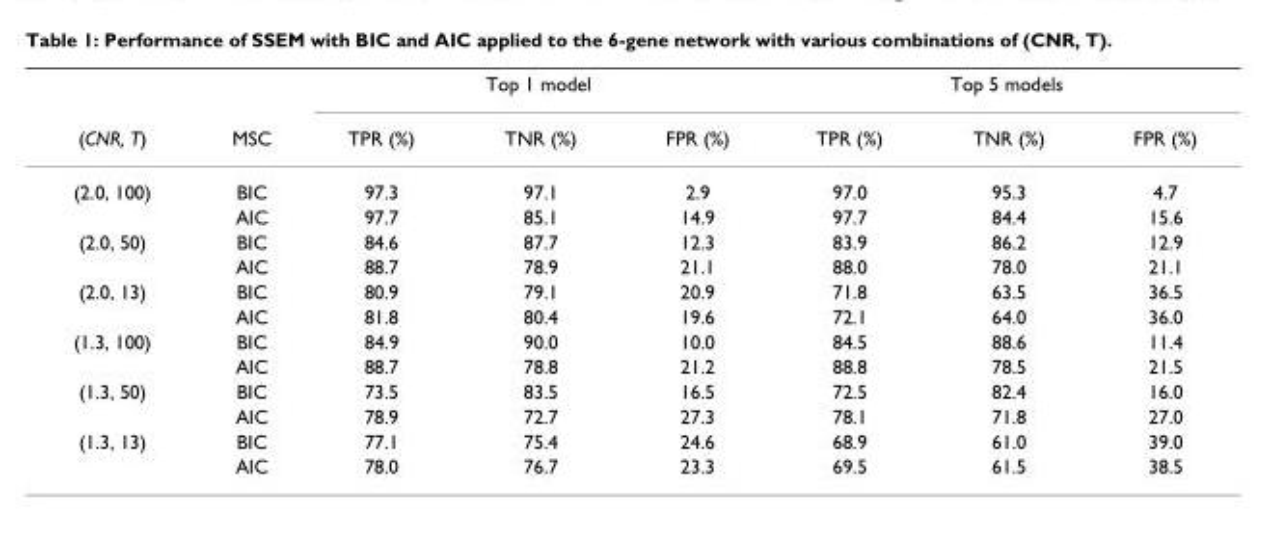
<table><thead><tr><td rowspan="2">(CNR, T)</td><td rowspan="2">MSC</td><td colspan="3">Top 1 model</td><td colspan="3">Top 5 models</td></tr><tr><td>TPR (%)</td><td>TNR (%)</td><td>FPR (%)</td><td>TPR (%)</td><td>TNR (%)</td><td>FPR (%)</td></tr></thead><tbody><tr><td rowspan="2">(2.0, 100)</td><td>BIC</td><td>97.3</td><td>97.1</td><td>2.9</td><td>97.0</td><td>95.3</td><td>4.7</td></tr><tr><td>AIC</td><td>97.7</td><td>85.1</td><td>14.9</td><td>97.7</td><td>84.4</td><td>15.6</td></tr><tr><td rowspan="2">(2.0, 50)</td><td>BIC</td><td>84.6</td><td>87.7</td><td>12.3</td><td>83.9</td><td>86.2</td><td>12.9</td></tr><tr><td>AIC</td><td>88.7</td><td>78.9</td><td>21.1</td><td>88.0</td><td>78.0</td><td>21.1</td></tr><tr><td rowspan="2">(2.0, 13)</td><td>BIC</td><td>80.9</td><td>79.1</td><td>20.9</td><td>71.8</td><td>63.5</td><td>36.5</td></tr><tr><td>AIC</td><td>81.8</td><td>80.4</td><td>19.6</td><td>72.1</td><td>64.0</td><td>36.0</td></tr><tr><td rowspan="2">(1.3, 100)</td><td>BIC</td><td>84.9</td><td>90.0</td><td>10.0</td><td>84.5</td><td>88.6</td><td>11.4</td></tr><tr><td>AIC</td><td>88.7</td><td>78.8</td><td>21.2</td><td>88.8</td><td>78.5</td><td>21.5</td></tr><tr><td rowspan="2">(1.3, 50)</td><td>BIC</td><td>73.5</td><td>83.5</td><td>16.5</td><td>72.5</td><td>82.4</td><td>16.0</td></tr><tr><td>AIC</td><td>78.9</td><td>72.7</td><td>27.3</td><td>78.1</td><td>71.8</td><td>27.0</td></tr><tr><td rowspan="2">(1.3, 13)</td><td>BIC</td><td>77.1</td><td>75.4</td><td>24.6</td><td>68.9</td><td>61.0</td><td>39.0</td></tr><tr><td>AIC</td><td>78.0</td><td>76.7</td><td>23.3</td><td>69.5</td><td>61.5</td><td>38.5</td></tr></tbody></table>